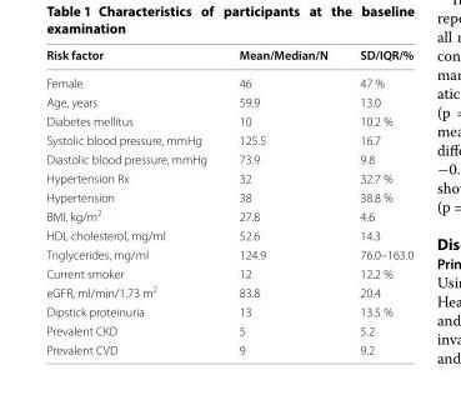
<table><thead><tr><td>Risk factor</td><td>Mean/Median/N</td><td>SD/IQR/%</td></tr></thead><tbody><tr><td>Female</td><td>46</td><td>47 %</td></tr><tr><td>Age, years</td><td>59.9</td><td>13.0</td></tr><tr><td>Diabetes mellitus</td><td>10</td><td>10.2 %</td></tr><tr><td>Systolic blood pressure, mmHg</td><td>125.5</td><td>16.7</td></tr><tr><td>Diastolic blood pressure, mmHg</td><td>73.9</td><td>9.8</td></tr><tr><td>Hypertension Rx</td><td>32</td><td>32.7 %</td></tr><tr><td>Hypertension</td><td>38</td><td>38.8 %</td></tr><tr><td>BMI, kg/m<sup>2</sup></td><td>27.8</td><td>4.6</td></tr><tr><td>HDL cholesterol, mg/ml</td><td>52.6</td><td>14.3</td></tr><tr><td>Triglycerides, mg/ml</td><td>124.9</td><td>76.0–163.0</td></tr><tr><td>Current smoker</td><td>12</td><td>12.2 %</td></tr><tr><td>eGFR, ml/min/1.73 m<sup>2</sup></td><td>83.8</td><td>20.4</td></tr><tr><td>Dipstick proteinuria</td><td>13</td><td>13.5 %</td></tr><tr><td>Prevalent CKD</td><td>5</td><td>5.2</td></tr><tr><td>Prevalent CVD</td><td>9</td><td>9.2</td></tr></tbody></table>